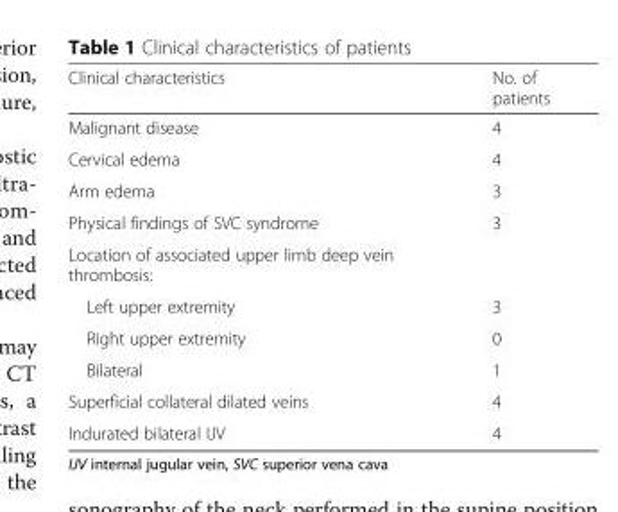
<table><thead><tr><td>Clinical characteristics</td><td>No. of patients</td></tr></thead><tbody><tr><td>Malignant disease</td><td>4</td></tr><tr><td>Cervical edema</td><td>4</td></tr><tr><td>Arm edema</td><td>3</td></tr><tr><td>Physical findings of SVC syndrome</td><td>3</td></tr><tr><td colspan="2">Location of associated upper limb deep vein thrombosis:</td></tr><tr><td>Left upper extremity</td><td>3</td></tr><tr><td>Right upper extremity</td><td>0</td></tr><tr><td>Bilateral</td><td>1</td></tr><tr><td>Superficial collateral dilated veins</td><td>4</td></tr><tr><td>Indurated bilateral IJV</td><td>4</td></tr></tbody></table>